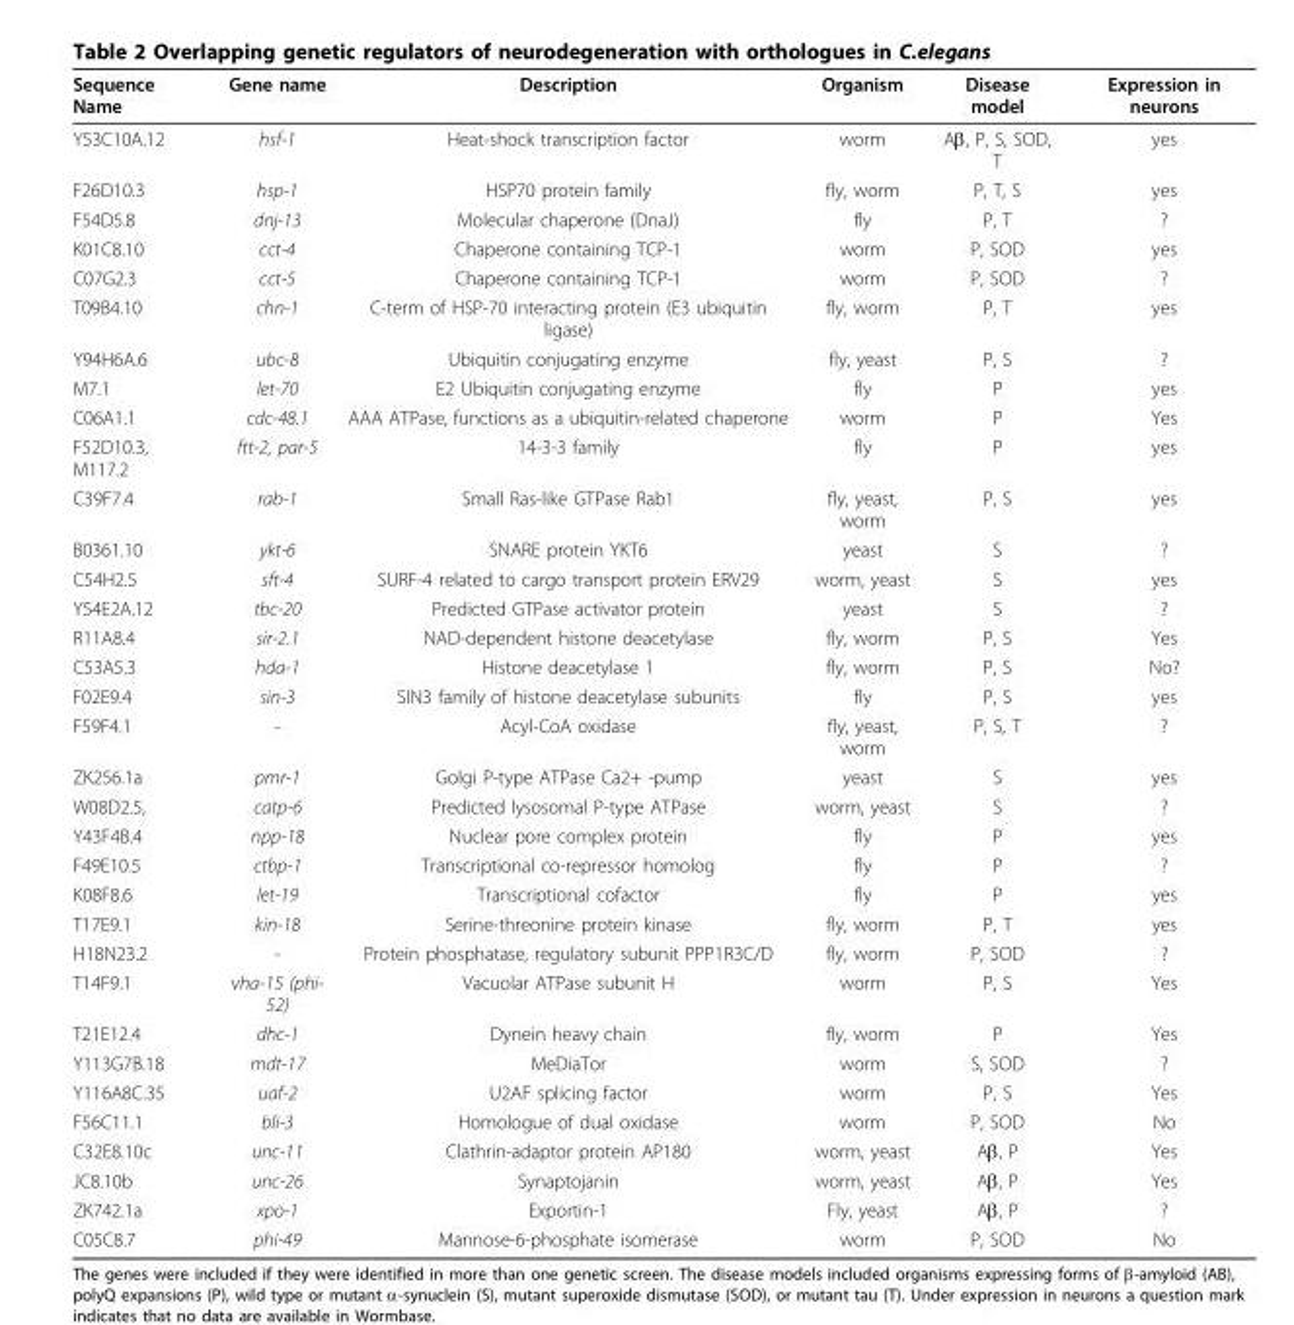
<table><thead><tr><td>Sequence Name</td><td>Gene name</td><td>Description</td><td>Organism</td><td>Disease model</td><td>Expression in neurons</td></tr></thead><tbody><tr><td>Y53C10A.12</td><td>hsf-1</td><td>Heat-shock transcription factor</td><td>worm</td><td>Aβ, P, S, SOD, T</td><td>yes</td></tr><tr><td>F26D10.3</td><td>hsp-1</td><td>HSP70 protein family</td><td>fly, worm</td><td>P, T, S</td><td>yes</td></tr><tr><td>F54D5.8</td><td>dnj-13</td><td>Molecular chaperone (DnaJ)</td><td>fly</td><td>P, T</td><td>?</td></tr><tr><td>K01C8.10</td><td>cct-4</td><td>Chaperone containing TCP-1</td><td>worm</td><td>P, SOD</td><td>yes</td></tr><tr><td>C07G2.3</td><td>cct-5</td><td>Chaperone containing TCP-1</td><td>worm</td><td>P, SOD</td><td>?</td></tr><tr><td>T09B4.10</td><td>chn-1</td><td>C-term of HSP-70 interacting protein (E3 ubiquitin ligase)</td><td>fly, worm</td><td>P, T</td><td>yes</td></tr><tr><td>Y94H6A.6</td><td>ubc-8</td><td>Ubiquitin conjugating enzyme</td><td>fly, yeast</td><td>P, S</td><td>?</td></tr><tr><td>M7.1</td><td>let-70</td><td>E2 Ubiquitin conjugating enzyme</td><td>fly</td><td>P</td><td>yes</td></tr><tr><td>C06A1.1</td><td>cdc-48.1</td><td>AAA ATPase, functions as a ubiquitin-related chaperone</td><td>worm</td><td>P</td><td>Yes</td></tr><tr><td>F52D10.3, M117.2</td><td>ftt-2, par-5</td><td>14-3-3 family</td><td>fly</td><td>P</td><td>yes</td></tr><tr><td>C39F7.4</td><td>rab-1</td><td>Small Ras-like GTPase Rab1</td><td>fly, yeast, worm</td><td>P, S</td><td>yes</td></tr><tr><td>B0361.10</td><td>ykt-6</td><td>SNARE protein YKT6</td><td>yeast</td><td>S</td><td>?</td></tr><tr><td>C54H2.5</td><td>sft-4</td><td>SURF-4 related to cargo transport protein ERV29</td><td>worm, yeast</td><td>S</td><td>yes</td></tr><tr><td>Y54E2A.12</td><td>tbc-20</td><td>Predicted GTPase activator protein</td><td>yeast</td><td>S</td><td>?</td></tr><tr><td>R11A8.4</td><td>sir-2.1</td><td>NAD-dependent histone deacetylase</td><td>fly, worm</td><td>P, S</td><td>Yes</td></tr><tr><td>C53A5.3</td><td>hda-1</td><td>Histone deacetylase 1</td><td>fly, worm</td><td>P, S</td><td>No?</td></tr><tr><td>F02E9.4</td><td>sin-3</td><td>SIN3 family of histone deacetylase subunits</td><td>fly</td><td>P, S</td><td>yes</td></tr><tr><td>F59F4.1</td><td>-</td><td>Acyl-CoA oxidase</td><td>fly, yeast, worm</td><td>P, S, T</td><td>?</td></tr><tr><td>ZK256.1a</td><td>pmr-1</td><td>Golgi P-type ATPase Ca2+ -pump</td><td>yeast</td><td>S</td><td>yes</td></tr><tr><td>W08D2.5,</td><td>catp-6</td><td>Predicted lysosomal P-type ATPase</td><td>worm, yeast</td><td>S</td><td>?</td></tr><tr><td>Y43F4B.4</td><td>npp-18</td><td>Nuclear pore complex protein</td><td>fly</td><td>P</td><td>yes</td></tr><tr><td>F49E10.5</td><td>ctbp-1</td><td>Transcriptional co-repressor homolog</td><td>fly</td><td>P</td><td>?</td></tr><tr><td>K08F8.6</td><td>let-19</td><td>Transcriptional cofactor</td><td>fly</td><td>P</td><td>yes</td></tr><tr><td>T17E9.1</td><td>kin-18</td><td>Serine-threonine protein kinase</td><td>fly, worm</td><td>P, T</td><td>yes</td></tr><tr><td>H18N23.2</td><td>-</td><td>Protein phosphatase, regulatory subunit PPP1R3C/D</td><td>fly, worm</td><td>P, SOD</td><td>?</td></tr><tr><td>T14F9.1</td><td>vha-15 (phi- 52)</td><td>Vacuolar ATPase subunit H</td><td>worm</td><td>P, S</td><td>Yes</td></tr><tr><td>T21E12.4</td><td>dhc-1</td><td>Dynein heavy chain</td><td>fly, worm</td><td>P</td><td>Yes</td></tr><tr><td>Y113G7B.18</td><td>mdt-17</td><td>MeDiaTor</td><td>worm</td><td>S, SOD</td><td>?</td></tr><tr><td>Y116A8C.35</td><td>uaf-2</td><td>U2AF splicing factor</td><td>worm</td><td>P, S</td><td>Yes</td></tr><tr><td>F56C11.1</td><td>bli-3</td><td>Homologue of dual oxidase</td><td>worm</td><td>P, SOD</td><td>No</td></tr><tr><td>C32E8.10c</td><td>unc-11</td><td>Clathrin-adaptor protein AP180</td><td>worm, yeast</td><td>Aβ, P</td><td>Yes</td></tr><tr><td>JC8.10b</td><td>unc-26</td><td>Synaptojanin</td><td>worm, yeast</td><td>Aβ, P</td><td>Yes</td></tr><tr><td>ZK742.1a</td><td>xpo-1</td><td>Exportin-1</td><td>Fly, yeast</td><td>Aβ, P</td><td>?</td></tr><tr><td>C05C8.7</td><td>phi-49</td><td>Mannose-6-phosphate isomerase</td><td>worm</td><td>P, SOD</td><td>No</td></tr></tbody></table>